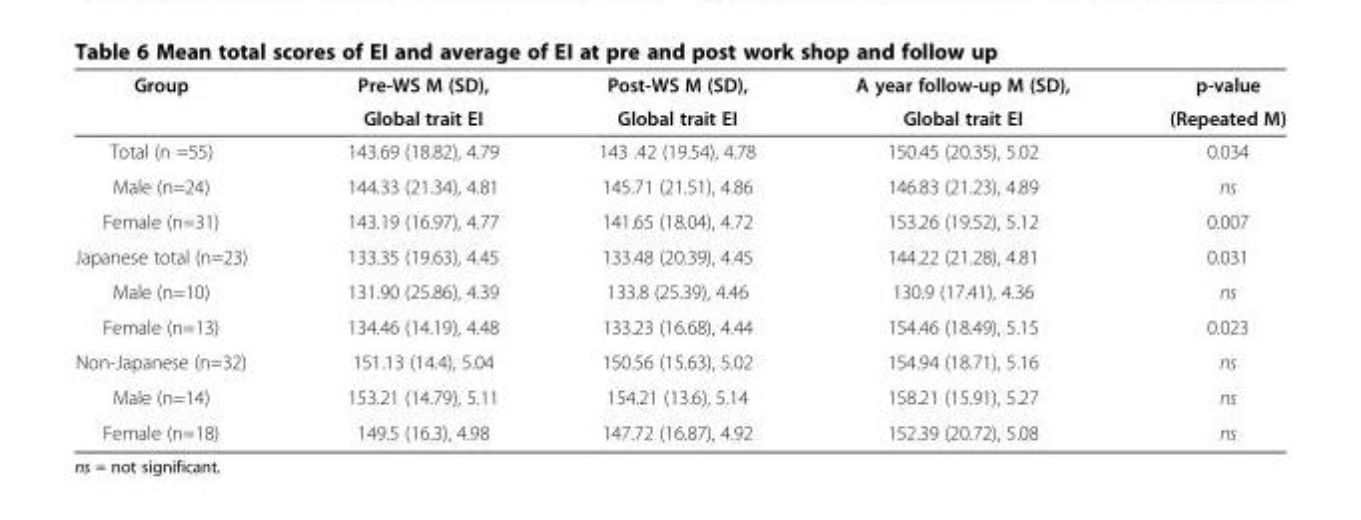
<table><thead><tr><td rowspan="2">Group</td><td rowspan="2">Pre-WS M (SD), Global trait EI</td><td rowspan="2">Post-WS M (SD), Global trait EI</td><td rowspan="2">A year follow-up M (SD), Global trait EI</td><td rowspan="2">p-value (Repeated M)</td></tr><tr></tr></thead><tbody><tr><td>Total (n =55)</td><td>143.69 (18.82), 4.79</td><td>143 .42 (19.54), 4.78</td><td>150.45 (20.35), 5.02</td><td>0.034</td></tr><tr><td>Male (n=24)</td><td>144.33 (21.34), 4.81</td><td>145.71 (21.51), 4.86</td><td>146.83 (21.23), 4.89</td><td>ns</td></tr><tr><td>Female (n=31)</td><td>143.19 (16.97), 4.77</td><td>141.65 (18.04), 4.72</td><td>153.26 (19.52), 5.12</td><td>0.007</td></tr><tr><td>Japanese total (n=23)</td><td>133.35 (19.63), 4.45</td><td>133.48 (20.39), 4.45</td><td>144.22 (21.28), 4.81</td><td>0.031</td></tr><tr><td>Male (n=10)</td><td>131.90 (25.86), 4.39</td><td>133.8 (25.39), 4.46</td><td>130.9 (17.41), 4.36</td><td>ns</td></tr><tr><td>Female (n=13)</td><td>134.46 (14.19), 4.48</td><td>133.23 (16.68), 4.44</td><td>154.46 (18.49), 5.15</td><td>0.023</td></tr><tr><td>Non-Japanese (n=32)</td><td>151.13 (14.4), 5.04</td><td>150.56 (15.63), 5.02</td><td>154.94 (18.71), 5.16</td><td>ns</td></tr><tr><td>Male (n=14)</td><td>153.21 (14.79), 5.11</td><td>154.21 (13.6), 5.14</td><td>158.21 (15.91), 5.27</td><td>ns</td></tr><tr><td>Female (n=18)</td><td>149.5 (16.3), 4.98</td><td>147.72 (16.87), 4.92</td><td>152.39 (20.72), 5.08</td><td>ns</td></tr></tbody></table>